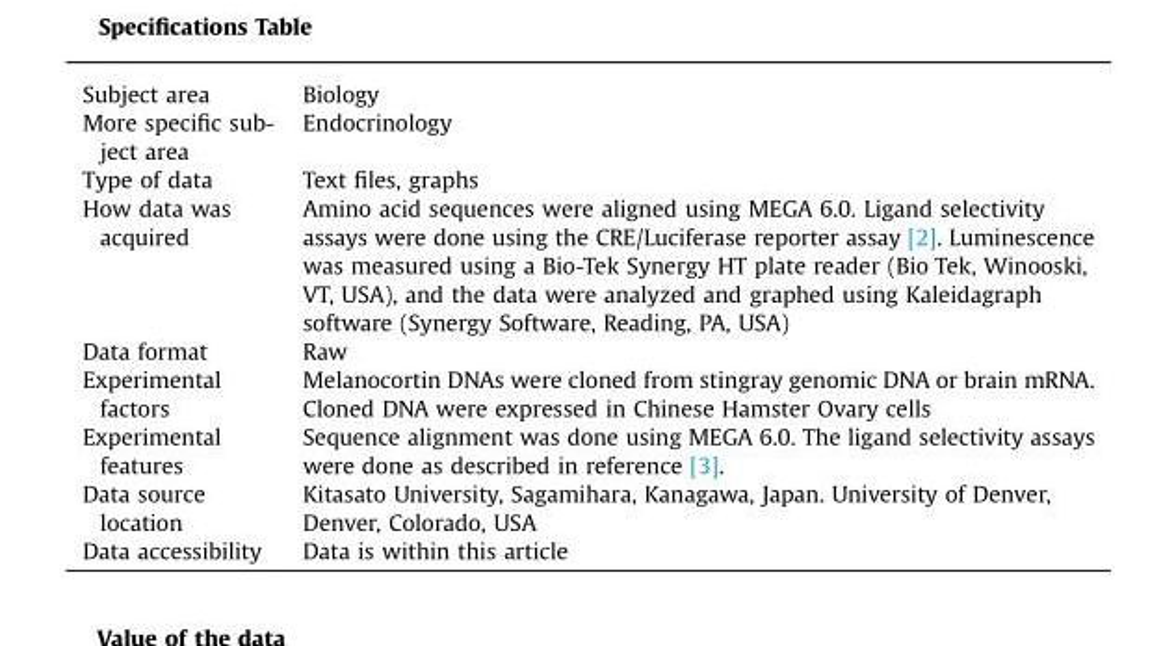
<table><tbody><tr><td>Subject area</td><td>Biology</td></tr><tr><td>More specific sub- ject area</td><td>Endocrinology</td></tr><tr><td>Type of data</td><td>Text files, graphs</td></tr><tr><td>How data was acquired</td><td>Amino acid sequences were aligned using MEGA 6.0. Ligand selectivity assays were done using the CRE/Luciferase reporter assay [2]. Luminescence was measured using a Bio-Tek Synergy HT plate reader (Bio Tek, Winooski, VT, USA), and the data were analyzed and graphed using Kaleidagraph software (Synergy Software, Reading, PA, USA)</td></tr><tr><td>Data format</td><td>Raw</td></tr><tr><td>Experimental factors</td><td>Melanocortin DNAs were cloned from stingray genomic DNA or brain mRNA. Cloned DNA were expressed in Chinese Hamster Ovary cells</td></tr><tr><td>Experimental features</td><td>Sequence alignment was done using MEGA 6.0. The ligand selectivity assays were done as described in reference [3].</td></tr><tr><td>Data source location</td><td>Kitasato University, Sagamihara, Kanagawa, Japan. University of Denver, Denver, Colorado, USA</td></tr><tr><td>Data accessibility</td><td>Data is within this article</td></tr></tbody></table>